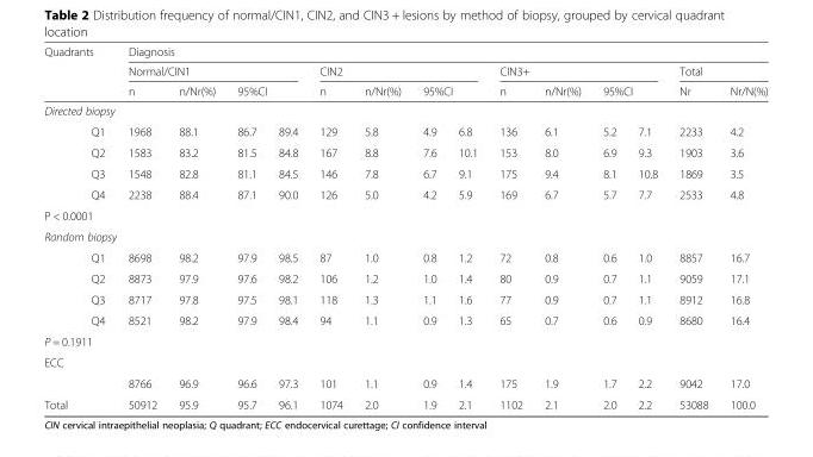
<table><thead><tr><td colspan="2">Quadrants</td><td colspan="14">Diagnosis</td></tr><tr><td rowspan="2"></td><td rowspan="2"></td><td colspan="4">Normal/CIN1</td><td colspan="4">CIN2</td><td colspan="4">CIN3+</td><td colspan="2">Total</td></tr><tr><td>n</td><td>n/Nr(%)</td><td colspan="2">95%CI</td><td rowspan="2">n</td><td rowspan="2">n/Nr(%)</td><td colspan="2">95%CI</td><td rowspan="2">n</td><td rowspan="2">n/Nr(%)</td><td colspan="2">95%CI</td><td rowspan="2">Nr</td><td rowspan="2">Nr/N(%)</td></tr><tr><td colspan="4">Directed biopsy</td><td></td><td></td><td></td><td></td><td></td><td></td></tr></thead><tbody><tr><td></td><td>Q1</td><td>1968</td><td>88.1</td><td>86.7</td><td>89.4</td><td>129</td><td>5.8</td><td>4.9</td><td>6.8</td><td>136</td><td>6.1</td><td>5.2</td><td>7.1</td><td>2233</td><td>4.2</td></tr><tr><td></td><td>Q2</td><td>1583</td><td>83.2</td><td>81.5</td><td>84.8</td><td>167</td><td>8.8</td><td>7.6</td><td>10.1</td><td>153</td><td>8.0</td><td>6.9</td><td>9.3</td><td>1903</td><td>3.6</td></tr><tr><td></td><td>Q3</td><td>1548</td><td>82.8</td><td>81.1</td><td>84.5</td><td>146</td><td>7.8</td><td>6.7</td><td>9.1</td><td>175</td><td>9.4</td><td>8.1</td><td>10.8</td><td>1869</td><td>3.5</td></tr><tr><td></td><td>Q4</td><td>2238</td><td>88.4</td><td>87.1</td><td>90.0</td><td>126</td><td>5.0</td><td>4.2</td><td>5.9</td><td>169</td><td>6.7</td><td>5.7</td><td>7.7</td><td>2533</td><td>4.8</td></tr><tr><td colspan="16">P &lt; 0.0001</td></tr><tr><td colspan="16">Random biopsy</td></tr><tr><td></td><td>Q1</td><td>8698</td><td>98.2</td><td>97.9</td><td>98.5</td><td>87</td><td>1.0</td><td>0.8</td><td>1.2</td><td>72</td><td>0.8</td><td>0.6</td><td>1.0</td><td>8857</td><td>16.7</td></tr><tr><td></td><td>Q2</td><td>8873</td><td>97.9</td><td>97.6</td><td>98.2</td><td>106</td><td>1.2</td><td>1.0</td><td>1.4</td><td>80</td><td>0.9</td><td>0.7</td><td>1.1</td><td>9059</td><td>17.1</td></tr><tr><td></td><td>Q3</td><td>8717</td><td>97.8</td><td>97.5</td><td>98.1</td><td>118</td><td>1.3</td><td>1.1</td><td>1.6</td><td>77</td><td>0.9</td><td>0.7</td><td>1.1</td><td>8912</td><td>16.8</td></tr><tr><td></td><td>Q4</td><td>8521</td><td>98.2</td><td>97.9</td><td>98.4</td><td>94</td><td>1.1</td><td>0.9</td><td>1.3</td><td>65</td><td>0.7</td><td>0.6</td><td>0.9</td><td>8680</td><td>16.4</td></tr><tr><td colspan="16">P = 0.1911</td></tr><tr><td colspan="16">ECC</td></tr><tr><td></td><td></td><td>8766</td><td>96.9</td><td>96.6</td><td>97.3</td><td>101</td><td>1.1</td><td>0.9</td><td>1.4</td><td>175</td><td>1.9</td><td>1.7</td><td>2.2</td><td>9042</td><td>17.0</td></tr><tr><td>Total</td><td></td><td>50912</td><td>95.9</td><td>95.7</td><td>96.1</td><td>1074</td><td>2.0</td><td>1.9</td><td>2.1</td><td>1102</td><td>2.1</td><td>2.0</td><td>2.2</td><td>53088</td><td>100.0</td></tr></tbody></table>